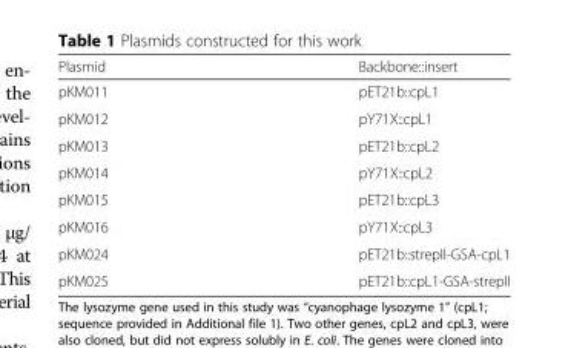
<table><thead><tr><td>Plasmid</td><td>Backbone::insert</td></tr></thead><tbody><tr><td>pKM011</td><td>pET21b::cpL1</td></tr><tr><td>pKM012</td><td>pY71X::cpL1</td></tr><tr><td>pKM013</td><td>pET21b::cpL2</td></tr><tr><td>pKM014</td><td>pY71X::cpL2</td></tr><tr><td>pKM015</td><td>pET21b::cpL3</td></tr><tr><td>pKM016</td><td>pY71X::cpL3</td></tr><tr><td>pKM024</td><td>pET21b::strepII-GSA-cpL1</td></tr><tr><td>pKM025</td><td>pET21b::cpL1-GSA-strepII</td></tr></tbody></table>